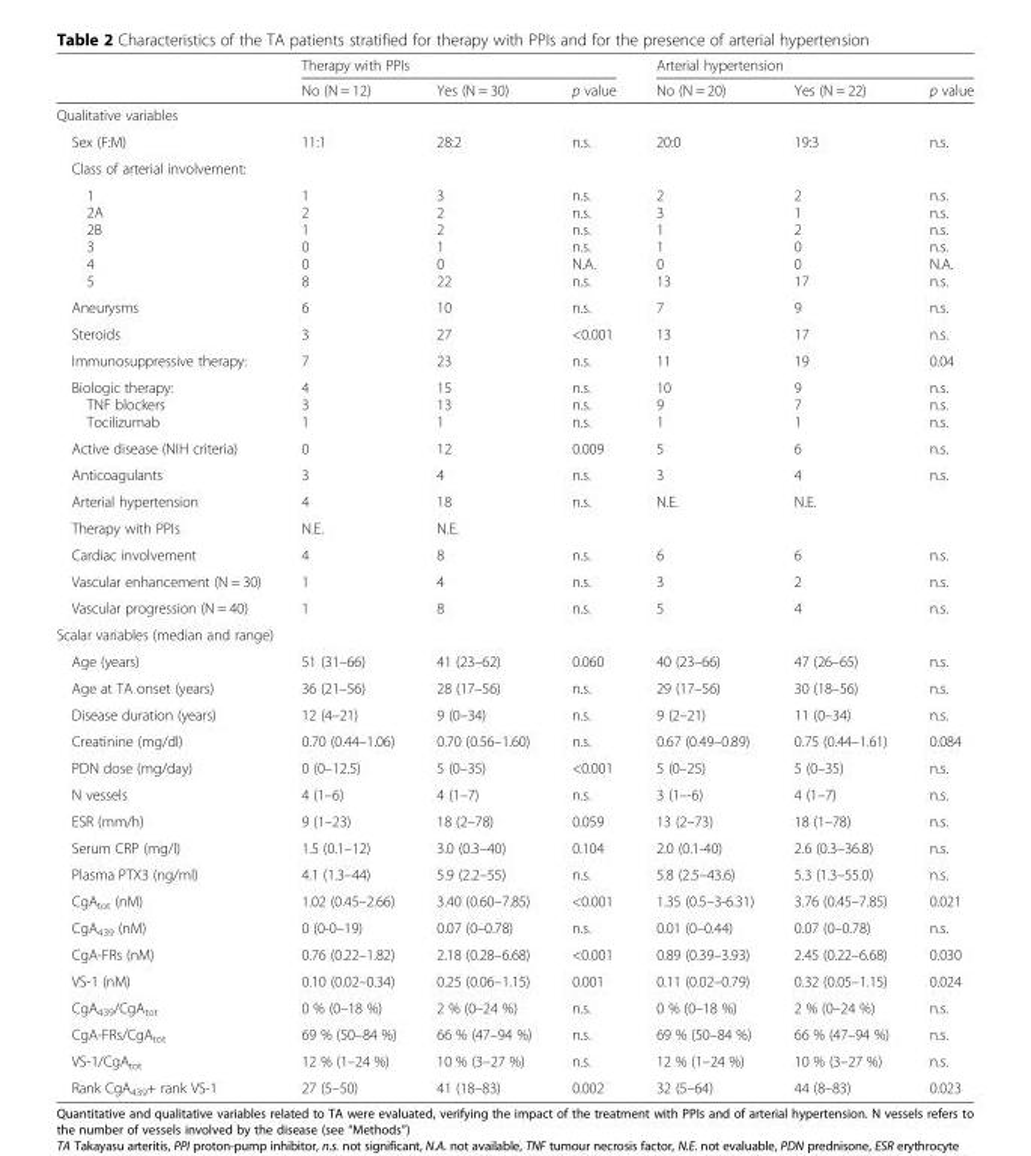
<table><thead><tr><td rowspan="2"></td><td colspan="3">Therapy with PPIs</td><td colspan="3">Arterial hypertension</td></tr><tr><td>No (N = 12)</td><td>Yes (N = 30)</td><td>p value</td><td>No (N = 20)</td><td>Yes (N = 22)</td><td>p value</td></tr></thead><tbody><tr><td colspan="7">Qualitative variables</td></tr><tr><td>Sex (F:M)</td><td>11:1</td><td>28:2</td><td>n.s.</td><td>20:0</td><td>19:3</td><td>n.s.</td></tr><tr><td colspan="7">Class of arterial involvement:</td></tr><tr><td>1 2A 2B 3 4 5</td><td>1 2 1 0 0 8</td><td>3 2 2 1 0 22</td><td>n.s. n.s. n.s. n.s. N.A. n.s.</td><td>2 3 1 1 0 13</td><td>2 1 2 0 0 17</td><td>n.s. n.s. n.s. n.s. N.A. n.s.</td></tr><tr><td>Aneurysms</td><td>6</td><td>10</td><td>n.s.</td><td>7</td><td>9</td><td>n.s.</td></tr><tr><td>Steroids</td><td>3</td><td>27</td><td>&lt;0.001</td><td>13</td><td>17</td><td>n.s.</td></tr><tr><td>Immunosuppressive therapy:</td><td>7</td><td>23</td><td>n.s.</td><td>11</td><td>19</td><td>0.04</td></tr><tr><td>Biologic therapy: TNF blockers Tocilizumab</td><td>4 3 1</td><td>15 13 1</td><td>n.s. n.s. n.s.</td><td>10 9 1</td><td>9 7 1</td><td>n.s. n.s. n.s.</td></tr><tr><td>Active disease (NIH criteria)</td><td>0</td><td>12</td><td>0.009</td><td>5</td><td>6</td><td>n.s.</td></tr><tr><td>Anticoagulants</td><td>3</td><td>4</td><td>n.s.</td><td>3</td><td>4</td><td>n.s.</td></tr><tr><td>Arterial hypertension</td><td>4</td><td>18</td><td>n.s.</td><td>N.E.</td><td>N.E.</td><td></td></tr><tr><td>Therapy with PPIs</td><td>N.E.</td><td>N.E.</td><td></td><td></td><td></td><td></td></tr><tr><td>Cardiac involvement</td><td>4</td><td>8</td><td>n.s.</td><td>6</td><td>6</td><td>n.s.</td></tr><tr><td>Vascular enhancement (N = 30)</td><td>1</td><td>4</td><td>n.s.</td><td>3</td><td>2</td><td>n.s.</td></tr><tr><td>Vascular progression (N = 40)</td><td>1</td><td>8</td><td>n.s.</td><td>5</td><td>4</td><td>n.s.</td></tr><tr><td colspan="7">Scalar variables (median and range)</td></tr><tr><td>Age (years)</td><td>51 (31–66)</td><td>41 (23–62)</td><td>0.060</td><td>40 (23–66)</td><td>47 (26–65)</td><td>n.s.</td></tr><tr><td>Age at TA onset (years)</td><td>36 (21–56)</td><td>28 (17–56)</td><td>n.s.</td><td>29 (17–56)</td><td>30 (18–56)</td><td>n.s.</td></tr><tr><td>Disease duration (years)</td><td>12 (4–21)</td><td>9 (0–34)</td><td>n.s.</td><td>9 (2–21)</td><td>11 (0–34)</td><td>n.s.</td></tr><tr><td>Creatinine (mg/dl)</td><td>0.70 (0.44–1.06)</td><td>0.70 (0.56–1.60)</td><td>n.s.</td><td>0.67 (0.49–0.89)</td><td>0.75 (0.44–1.61)</td><td>0.084</td></tr><tr><td>PDN dose (mg/day)</td><td>0 (0–12.5)</td><td>5 (0–35)</td><td>&lt;0.001</td><td>5 (0–25)</td><td>5 (0–35)</td><td>n.s.</td></tr><tr><td>N vessels</td><td>4 (1–6)</td><td>4 (1–7)</td><td>n.s.</td><td>3 (1–-6)</td><td>4 (1–7)</td><td>n.s.</td></tr><tr><td>ESR (mm/h)</td><td>9 (1–23)</td><td>18 (2–78)</td><td>0.059</td><td>13 (2–73)</td><td>18 (1–78)</td><td>n.s.</td></tr><tr><td>Serum CRP (mg/l)</td><td>1.5 (0.1–12)</td><td>3.0 (0.3–40)</td><td>0.104</td><td>2.0 (0.1-40)</td><td>2.6 (0.3–36.8)</td><td>n.s.</td></tr><tr><td>Plasma PTX3 (ng/ml)</td><td>4.1 (1.3–44)</td><td>5.9 (2.2–55)</td><td>n.s.</td><td>5.8 (2.5–43.6)</td><td>5.3 (1.3–55.0)</td><td>n.s.</td></tr><tr><td>CgA<sub>tot</sub> (nM)</td><td>1.02 (0.45–2.66)</td><td>3.40 (0.60–7.85)</td><td>&lt;0.001</td><td>1.35 (0.5–3-6.31)</td><td>3.76 (0.45–7.85)</td><td>0.021</td></tr><tr><td>CgA<sub>439</sub> (nM)</td><td>0 (0-0–19)</td><td>0.07 (0–0.78)</td><td>n.s.</td><td>0.01 (0–0.44)</td><td>0.07 (0–0.78)</td><td>n.s.</td></tr><tr><td>CgA-FRs (nM)</td><td>0.76 (0.22–1.82)</td><td>2.18 (0.28–6.68)</td><td>&lt;0.001</td><td>0.89 (0.39–3.93)</td><td>2.45 (0.22–6.68)</td><td>0.030</td></tr><tr><td>VS-1 (nM)</td><td>0.10 (0.02–0.34)</td><td>0.25 (0.06–1.15)</td><td>0.001</td><td>0.11 (0.02–0.79)</td><td>0.32 (0.05–1.15)</td><td>0.024</td></tr><tr><td>CgA<sub>439</sub>/CgA<sub>tot</sub></td><td>0 % (0–18 %)</td><td>2 % (0–24 %)</td><td>n.s.</td><td>0 % (0–18 %)</td><td>2 % (0–24 %)</td><td>n.s.</td></tr><tr><td>CgA-FRs/CgA<sub>tot</sub></td><td>69 % (50–84 %)</td><td>66 % (47–94 %)</td><td>n.s.</td><td>69 % (50–84 %)</td><td>66 % (47–94 %)</td><td>n.s.</td></tr><tr><td>VS-1/CgA<sub>tot</sub></td><td>12 % (1–24 %)</td><td>10 % (3–27 %)</td><td>n.s.</td><td>12 % (1–24 %)</td><td>10 % (3–27 %)</td><td>n.s.</td></tr><tr><td>Rank CgA<sub>439</sub>+ rank VS-1</td><td>27 (5–50)</td><td>41 (18–83)</td><td>0.002</td><td>32 (5–64)</td><td>44 (8–83)</td><td>0.023</td></tr></tbody></table>